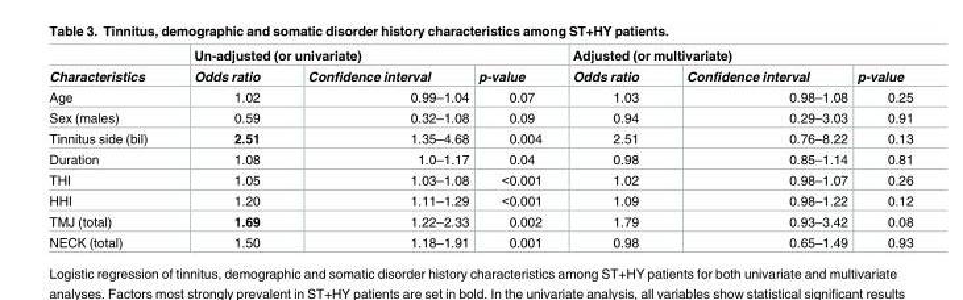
<table><thead><tr><td rowspan="2">Characteristics</td><td colspan="3">Un-adjusted (or univariate)</td><td colspan="3">Adjusted (or multivariate)</td></tr><tr><td>Odds ratio</td><td>Confidence interval</td><td>p-value</td><td>Odds ratio</td><td>Confidence interval</td><td>p-value</td></tr></thead><tbody><tr><td>Age</td><td>1.02</td><td>0.99–1.04</td><td>0.07</td><td>1.03</td><td>0.98–1.08</td><td>0.25</td></tr><tr><td>Sex (males)</td><td>0.59</td><td>0.32–1.08</td><td>0.09</td><td>0.94</td><td>0.29–3.03</td><td>0.91</td></tr><tr><td>Tinnitus side (bil)</td><td>2.51</td><td>1.35–4.68</td><td>0.004</td><td>2.51</td><td>0.76–8.22</td><td>0.13</td></tr><tr><td>Duration</td><td>1.08</td><td>1.0–1.17</td><td>0.04</td><td>0.98</td><td>0.85–1.14</td><td>0.81</td></tr><tr><td>THI</td><td>1.05</td><td>1.03–1.08</td><td>&lt;0.001</td><td>1.02</td><td>0.98–1.07</td><td>0.26</td></tr><tr><td>HHI</td><td>1.20</td><td>1.11–1.29</td><td>&lt;0.001</td><td>1.09</td><td>0.98–1.22</td><td>0.12</td></tr><tr><td>TMJ (total)</td><td>1.69</td><td>1.22–2.33</td><td>0.002</td><td>1.79</td><td>0.93–3.42</td><td>0.08</td></tr><tr><td>NECK (total)</td><td>1.50</td><td>1.18–1.91</td><td>0.001</td><td>0.98</td><td>0.65–1.49</td><td>0.93</td></tr></tbody></table>